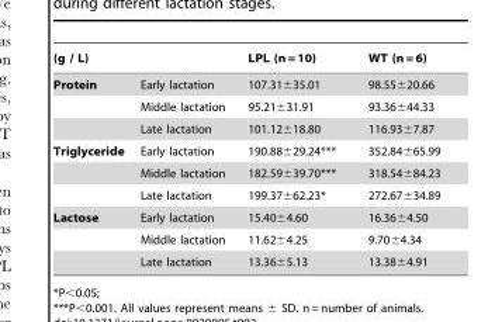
<table><thead><tr><td>(g / L)</td><td></td><td>LPL (n = 10)</td><td>WT (n = 6)</td></tr></thead><tbody><tr><td rowspan="3">Protein</td><td>Early lactation</td><td>107.31±35.01</td><td>98.55±20.66</td></tr><tr><td>Middle lactation</td><td>95.21±31.91</td><td>93.36±44.33</td></tr><tr><td>Late lactation</td><td>101.12±18.80</td><td>116.93±7.87</td></tr><tr><td rowspan="3">Triglyceride</td><td>Early lactation</td><td>190.88±29.24***</td><td>352.84±65.99</td></tr><tr><td>Middle lactation</td><td>182.59±39.70***</td><td>318.54±84.23</td></tr><tr><td>Late lactation</td><td>199.37±62.23*</td><td>272.67±34.89</td></tr><tr><td rowspan="3">Lactose</td><td>Early lactation</td><td>15.40±4.60</td><td>16.36±4.50</td></tr><tr><td>Middle lactation</td><td>11.62±4.25</td><td>9.70±4.34</td></tr><tr><td>Late lactation</td><td>13.36±5.13</td><td>13.38±4.91</td></tr></tbody></table>